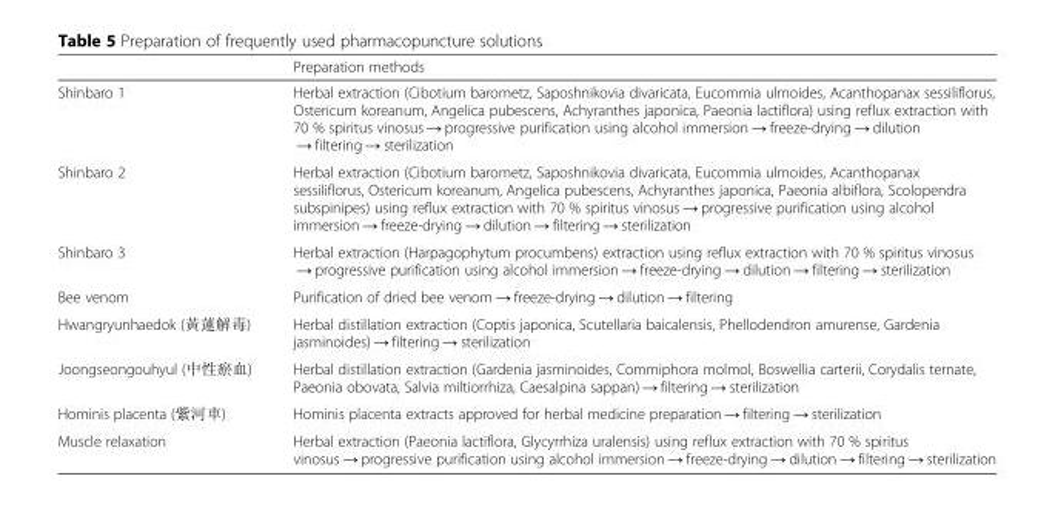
<table><thead><tr><td></td><td>Preparation methods</td></tr></thead><tbody><tr><td>Shinbaro 1</td><td>Herbal extraction (Cibotium barometz, Saposhnikovia divaricata, Eucommia ulmoides, Acanthopanax sessiliflorus, Ostericum koreanum, Angelica pubescens, Achyranthes japonica, Paeonia lactiflora) using reflux extraction with 70 % spiritus vinosus → progressive purification using alcohol immersion → freeze-drying → dilution → filtering → sterilization</td></tr><tr><td>Shinbaro 2</td><td>Herbal extraction (Cibotium barometz, Saposhnikovia divaricata, Eucommia ulmoides, Acanthopanax sessiliflorus, Ostericum koreanum, Angelica pubescens, Achyranthes japonica, Paeonia albiflora, Scolopendra subspinipes) using reflux extraction with 70 % spiritus vinosus → progressive purification using alcohol immersion → freeze-drying → dilution → filtering → sterilization</td></tr><tr><td>Shinbaro 3</td><td>Herbal extraction (Harpagophytum procumbens) extraction using reflux extraction with 70 % spiritus vinosus → progressive purification using alcohol immersion → freeze-drying → dilution → filtering → sterilization</td></tr><tr><td>Bee venom</td><td>Purification of dried bee venom → freeze-drying → dilution → filtering</td></tr><tr><td>Hwangryunhaedok (黃蓮解毒)</td><td>Herbal distillation extraction (Coptis japonica, Scutellaria baicalensis, Phellodendron amurense, Gardenia jasminoides) → filtering → sterilization</td></tr><tr><td>Joongseongouhyul (中性瘀血)</td><td>Herbal distillation extraction (Gardenia jasminoides, Commiphora molmol, Boswellia carterii, Corydalis ternate, Paeonia obovata, Salvia miltiorrhiza, Caesalpina sappan) → filtering → sterilization</td></tr><tr><td>Hominis placenta (紫河車)</td><td>Hominis placenta extracts approved for herbal medicine preparation → filtering → sterilization</td></tr><tr><td>Muscle relaxation</td><td>Herbal extraction (Paeonia lactiflora, Glycyrrhiza uralensis) using reflux extraction with 70 % spiritus vinosus → progressive purification using alcohol immersion → freeze-drying → dilution → filtering → sterilization</td></tr></tbody></table>